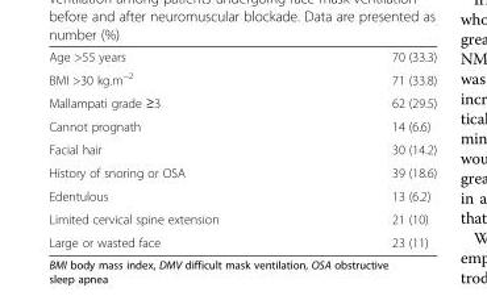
<table><tbody><tr><td>Age &gt;55 years</td><td>70 (33.3)</td></tr><tr><td>BMI &gt;30 kg.m<sup>−2</sup></td><td>71 (33.8)</td></tr><tr><td>Mallampati grade ≥3</td><td>62 (29.5)</td></tr><tr><td>Cannot prognath</td><td>14 (6.6)</td></tr><tr><td>Facial hair</td><td>30 (14.2)</td></tr><tr><td>History of snoring or OSA</td><td>39 (18.6)</td></tr><tr><td>Edentulous</td><td>13 (6.2)</td></tr><tr><td>Limited cervical spine extension</td><td>21 (10)</td></tr><tr><td>Large or wasted face</td><td>23 (11)</td></tr></tbody></table>